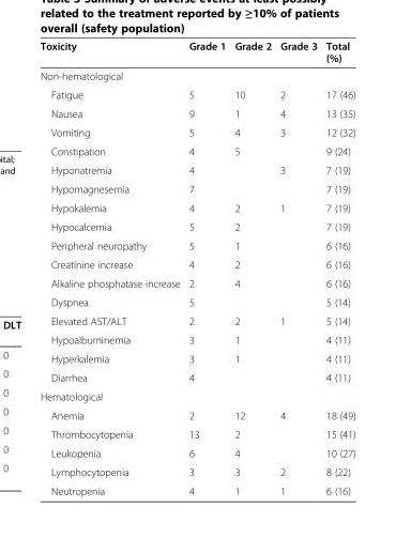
<table><thead><tr><td>Toxicity</td><td>Grade 1</td><td>Grade 2</td><td>Grade 3</td><td>Total (%)</td></tr></thead><tbody><tr><td colspan="5">Non-hematological</td></tr><tr><td>Fatigue</td><td>5</td><td>10</td><td>2</td><td>17 (46)</td></tr><tr><td>Nausea</td><td>9</td><td>1</td><td>4</td><td>13 (35)</td></tr><tr><td>Vomiting</td><td>5</td><td>4</td><td>3</td><td>12 (32)</td></tr><tr><td>Constipation</td><td>4</td><td>5</td><td></td><td>9 (24)</td></tr><tr><td>Hyponatremia</td><td>4</td><td></td><td>3</td><td>7 (19)</td></tr><tr><td>Hypomagnesemia</td><td>7</td><td></td><td></td><td>7 (19)</td></tr><tr><td>Hypokalemia</td><td>4</td><td>2</td><td>1</td><td>7 (19)</td></tr><tr><td>Hypocalcemia</td><td>5</td><td>2</td><td></td><td>7 (19)</td></tr><tr><td>Peripheral neuropathy</td><td>5</td><td>1</td><td></td><td>6 (16)</td></tr><tr><td>Creatinine increase</td><td>4</td><td>2</td><td></td><td>6 (16)</td></tr><tr><td>Alkaline phosphatase increase</td><td>2</td><td>4</td><td></td><td>6 (16)</td></tr><tr><td>Dyspnea</td><td>5</td><td></td><td></td><td>5 (14)</td></tr><tr><td>Elevated AST/ALT</td><td>2</td><td>2</td><td>1</td><td>5 (14)</td></tr><tr><td>Hypoalbuminemia</td><td>3</td><td>1</td><td></td><td>4 (11)</td></tr><tr><td>Hyperkalemia</td><td>3</td><td>1</td><td></td><td>4 (11)</td></tr><tr><td>Diarrhea</td><td>4</td><td></td><td></td><td>4 (11)</td></tr><tr><td colspan="5">Hematological</td></tr><tr><td>Anemia</td><td>2</td><td>12</td><td>4</td><td>18 (49)</td></tr><tr><td>Thrombocytopenia</td><td>13</td><td>2</td><td></td><td>15 (41)</td></tr><tr><td>Leukopenia</td><td>6</td><td>4</td><td></td><td>10 (27)</td></tr><tr><td>Lymphocytopenia</td><td>3</td><td>3</td><td>2</td><td>8 (22)</td></tr><tr><td>Neutropenia</td><td>4</td><td>1</td><td>1</td><td>6 (16)</td></tr></tbody></table>